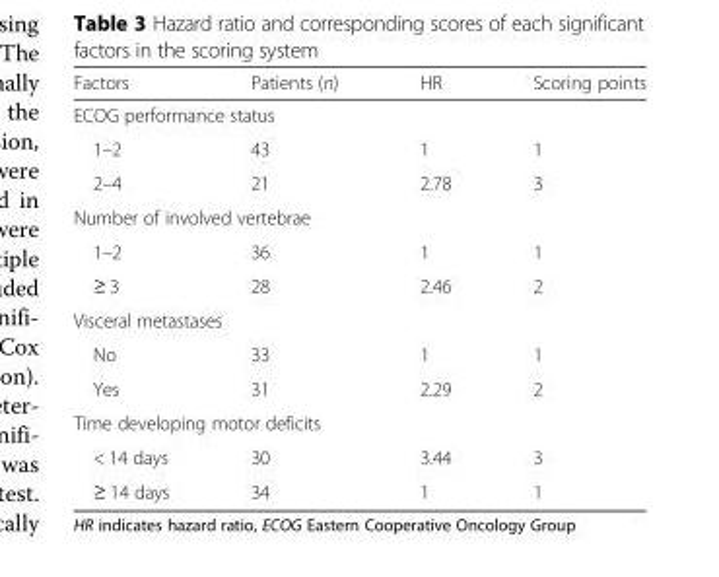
<table><thead><tr><td>Factors</td><td>Patients (n)</td><td>HR</td><td>Scoring points</td></tr></thead><tbody><tr><td colspan="4">ECOG performance status</td></tr><tr><td>1–2</td><td>43</td><td>1</td><td>1</td></tr><tr><td>2–4</td><td>21</td><td>2.78</td><td>3</td></tr><tr><td colspan="4">Number of involved vertebrae</td></tr><tr><td>1–2</td><td>36</td><td>1</td><td>1</td></tr><tr><td>≥ 3</td><td>28</td><td>2.46</td><td>2</td></tr><tr><td colspan="4">Visceral metastases</td></tr><tr><td>No</td><td>33</td><td>1</td><td>1</td></tr><tr><td>Yes</td><td>31</td><td>2.29</td><td>2</td></tr><tr><td colspan="4">Time developing motor deficits</td></tr><tr><td>&lt; 14 days</td><td>30</td><td>3.44</td><td>3</td></tr><tr><td>≥ 14 days</td><td>34</td><td>1</td><td>1</td></tr></tbody></table>